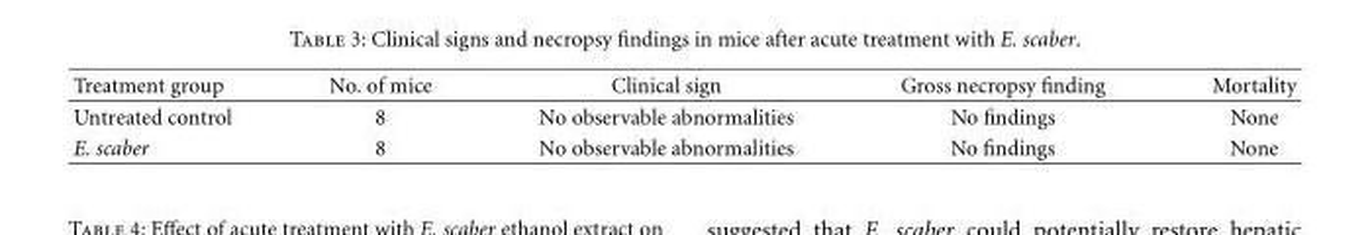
<table><thead><tr><td>Treatment group</td><td>No. of mice</td><td>Clinical sign</td><td>Gross necropsy finding</td><td>Mortality</td></tr></thead><tbody><tr><td>Untreated control</td><td>8</td><td>No observable abnormalities</td><td>No findings</td><td>None</td></tr><tr><td>E. scaber</td><td>8</td><td>No observable abnormalities</td><td>No findings</td><td>None</td></tr></tbody></table>